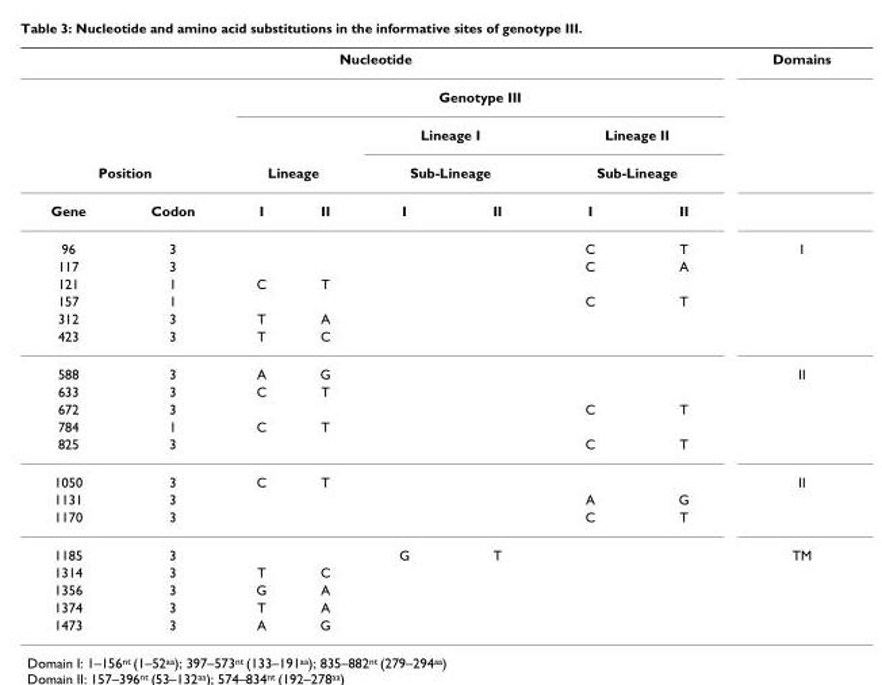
<table><tbody><tr><td colspan="8">Nucleotide</td><td>Domains</td></tr><tr><td></td><td></td><td colspan="6">Genotype III</td><td></td></tr><tr><td></td><td></td><td></td><td></td><td colspan="2">Lineage I</td><td colspan="2">Lineage II</td><td></td></tr><tr><td colspan="2">Position</td><td colspan="2">Lineage</td><td colspan="2">Sub-Lineage</td><td colspan="2">Sub-Lineage</td><td></td></tr><tr><td>Gene</td><td>Codon</td><td>I</td><td>II</td><td>I</td><td>II</td><td>I</td><td>II</td><td></td></tr><tr><td>96</td><td>3</td><td></td><td></td><td></td><td></td><td>C</td><td>T</td><td>I</td></tr><tr><td>117</td><td>3</td><td></td><td></td><td></td><td></td><td>C</td><td>A</td><td></td></tr><tr><td>121</td><td>1</td><td>C</td><td>T</td><td></td><td></td><td></td><td></td><td></td></tr><tr><td>157</td><td>1</td><td></td><td></td><td></td><td></td><td>C</td><td>T</td><td></td></tr><tr><td>312</td><td>3</td><td>T</td><td>A</td><td></td><td></td><td></td><td></td><td></td></tr><tr><td>423</td><td>3</td><td>T</td><td>C</td><td></td><td></td><td></td><td></td><td></td></tr><tr><td>588</td><td>3</td><td>A</td><td>G</td><td></td><td></td><td></td><td></td><td>II</td></tr><tr><td>633</td><td>3</td><td>C</td><td>T</td><td></td><td></td><td></td><td></td><td></td></tr><tr><td>672</td><td>3</td><td></td><td></td><td></td><td></td><td>C</td><td>T</td><td></td></tr><tr><td>784</td><td>1</td><td>C</td><td>T</td><td></td><td></td><td></td><td></td><td></td></tr><tr><td>825</td><td>3</td><td></td><td></td><td></td><td></td><td>C</td><td>T</td><td></td></tr><tr><td>1050</td><td>3</td><td>C</td><td>T</td><td></td><td></td><td></td><td></td><td>II</td></tr><tr><td>1131</td><td>3</td><td></td><td></td><td></td><td></td><td>A</td><td>G</td><td></td></tr><tr><td>1170</td><td>3</td><td></td><td></td><td></td><td></td><td>C</td><td>T</td><td></td></tr><tr><td>1185</td><td>3</td><td></td><td></td><td>G</td><td>T</td><td></td><td></td><td>TM</td></tr><tr><td>1314</td><td>3</td><td>T</td><td>C</td><td></td><td></td><td></td><td></td><td></td></tr><tr><td>1356</td><td>3</td><td>G</td><td>A</td><td></td><td></td><td></td><td></td><td></td></tr><tr><td>1374</td><td>3</td><td>T</td><td>A</td><td></td><td></td><td></td><td></td><td></td></tr><tr><td>1473</td><td>3</td><td>A</td><td>G</td><td></td><td></td><td></td><td></td><td></td></tr></tbody></table>